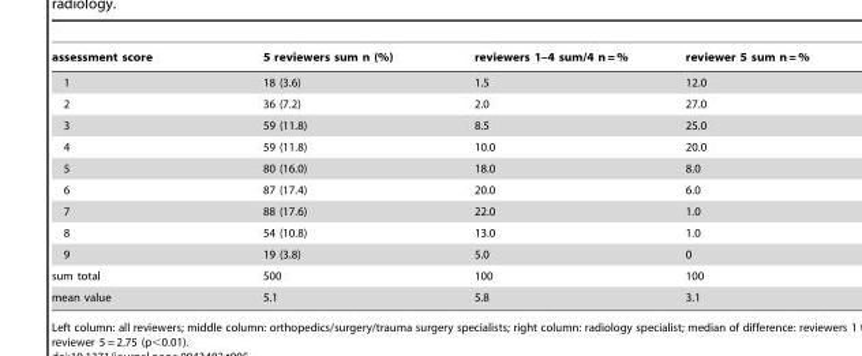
<table><thead><tr><td>assessment score</td><td>5 reviewers sum n (%)</td><td>reviewers 1–4 sum/4 n = %</td><td>reviewer 5 sum n = %</td></tr></thead><tbody><tr><td>1</td><td>18 (3.6)</td><td>1.5</td><td>12.0</td></tr><tr><td>2</td><td>36 (7.2)</td><td>2.0</td><td>27.0</td></tr><tr><td>3</td><td>59 (11.8)</td><td>8.5</td><td>25.0</td></tr><tr><td>4</td><td>59 (11.8)</td><td>10.0</td><td>20.0</td></tr><tr><td>5</td><td>80 (16.0)</td><td>18.0</td><td>8.0</td></tr><tr><td>6</td><td>87 (17.4)</td><td>20.0</td><td>6.0</td></tr><tr><td>7</td><td>88 (17.6)</td><td>22.0</td><td>1.0</td></tr><tr><td>8</td><td>54 (10.8)</td><td>13.0</td><td>1.0</td></tr><tr><td>9</td><td>19 (3.8)</td><td>5.0</td><td>0</td></tr><tr><td>sum total</td><td>500</td><td>100</td><td>100</td></tr><tr><td>mean value</td><td>5.1</td><td>5.8</td><td>3.1</td></tr></tbody></table>